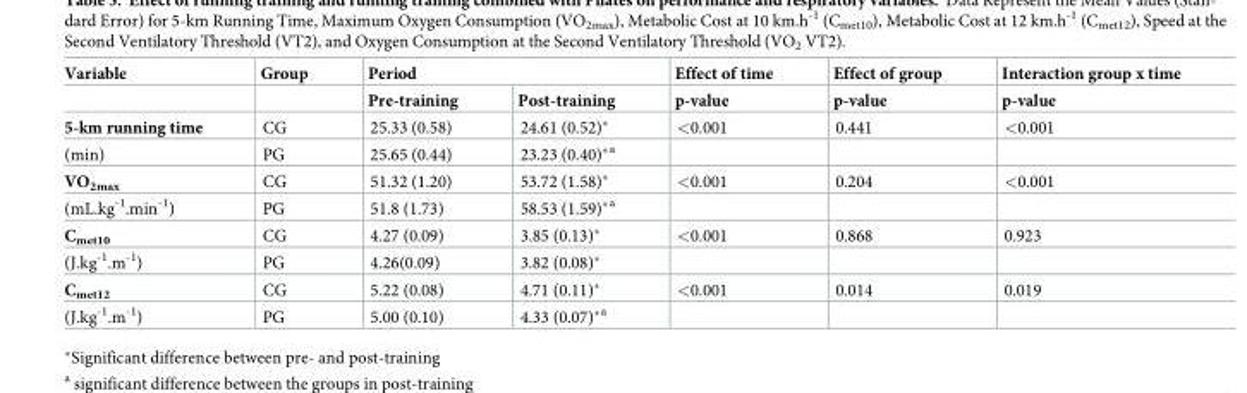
<table><thead><tr><td rowspan="2">Variable</td><td rowspan="2">Group</td><td colspan="2">Period</td><td rowspan="2">Effect of time p-value</td><td rowspan="2">Effect of group p-value</td><td rowspan="2">Interaction group x time p-value</td></tr><tr><td>Pre-training</td><td>Post-training</td></tr></thead><tbody><tr><td>5-km running time</td><td>CG</td><td>25.33 (0.58)</td><td>24.61 (0.52)*</td><td>&lt;0.001</td><td>0.441</td><td>&lt;0.001</td></tr><tr><td>(min)</td><td>PG</td><td>25.65 (0.44)</td><td>23.23 (0.40)*<sup>a</sup></td><td></td><td></td><td></td></tr><tr><td>VO<sub>2max</sub></td><td>CG</td><td>51.32 (1.20)</td><td>53.72 (1.58)*</td><td>&lt;0.001</td><td>0.204</td><td>&lt;0.001</td></tr><tr><td>(mL.kg<sup>-1</sup>.min<sup>-1</sup>)</td><td>PG</td><td>51.8 (1.73)</td><td>58.53 (1.59)*<sup>a</sup></td><td></td><td></td><td></td></tr><tr><td>C<sub>met10</sub></td><td>CG</td><td>4.27 (0.09)</td><td>3.85 (0.13)*</td><td>&lt;0.001</td><td>0.868</td><td>0.923</td></tr><tr><td>(J.kg<sup>-1</sup>.m<sup>-1</sup>)</td><td>PG</td><td>4.26(0.09)</td><td>3.82 (0.08)*</td><td></td><td></td><td></td></tr><tr><td>C<sub>met12</sub></td><td>CG</td><td>5.22 (0.08)</td><td>4.71 (0.11)*</td><td>&lt;0.001</td><td>0.014</td><td>0.019</td></tr><tr><td>(J.kg<sup>-1</sup>.m<sup>-1</sup>)</td><td>PG</td><td>5.00 (0.10)</td><td>4.33 (0.07)*<sup>a</sup></td><td></td><td></td><td></td></tr></tbody></table>